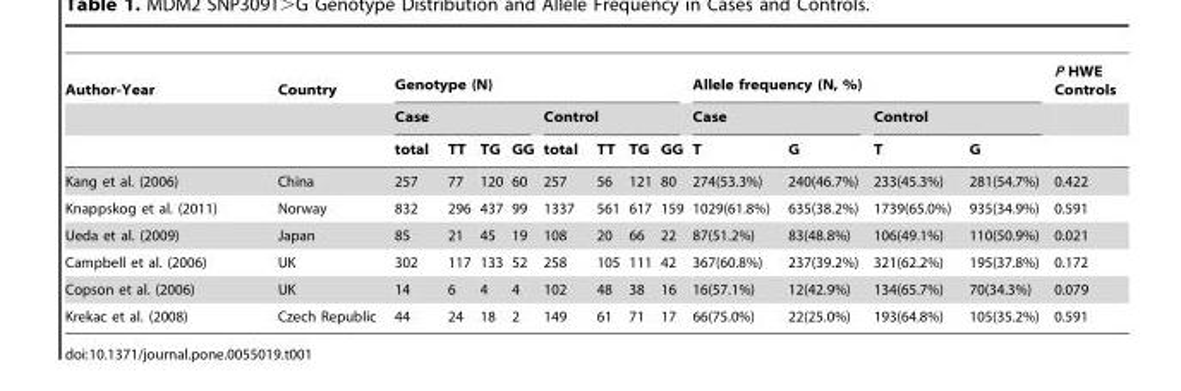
<table><thead><tr><td rowspan="3">Author-Year</td><td rowspan="3">Country</td><td colspan="8">Genotype (N)</td><td colspan="4">Allele frequency (N, %)</td><td rowspan="3">P HWE Controls</td></tr><tr><td colspan="4">Case</td><td colspan="4">Control</td><td colspan="2">Case</td><td colspan="2">Control</td></tr><tr><td>total</td><td>TT</td><td>TG</td><td>GG</td><td>total</td><td>TT</td><td>TG</td><td>GG</td><td>T</td><td>G</td><td>T</td><td>G</td></tr></thead><tbody><tr><td>Kang et al. (2006)</td><td>China</td><td>257</td><td>77</td><td>120</td><td>60</td><td>257</td><td>56</td><td>121</td><td>80</td><td>274(53.3%)</td><td>240(46.7%)</td><td>233(45.3%)</td><td>281(54.7%)</td><td>0.422</td></tr><tr><td>Knappskog et al. (2011)</td><td>Norway</td><td>832</td><td>296</td><td>437</td><td>99</td><td>1337</td><td>561</td><td>617</td><td>159</td><td>1029(61.8%)</td><td>635(38.2%)</td><td>1739(65.0%)</td><td>935(34.9%)</td><td>0.591</td></tr><tr><td>Ueda et al. (2009)</td><td>Japan</td><td>85</td><td>21</td><td>45</td><td>19</td><td>108</td><td>20</td><td>66</td><td>22</td><td>87(51.2%)</td><td>83(48.8%)</td><td>106(49.1%)</td><td>110(50.9%)</td><td>0.021</td></tr><tr><td>Campbell et al. (2006)</td><td>UK</td><td>302</td><td>117</td><td>133</td><td>52</td><td>258</td><td>105</td><td>111</td><td>42</td><td>367(60.8%)</td><td>237(39.2%)</td><td>321(62.2%)</td><td>195(37.8%)</td><td>0.172</td></tr><tr><td>Copson et al. (2006)</td><td>UK</td><td>14</td><td>6</td><td>4</td><td>4</td><td>102</td><td>48</td><td>38</td><td>16</td><td>16(57.1%)</td><td>12(42.9%)</td><td>134(65.7%)</td><td>70(34.3%)</td><td>0.079</td></tr><tr><td>Krekac et al. (2008)</td><td>Czech Republic</td><td>44</td><td>24</td><td>18</td><td>2</td><td>149</td><td>61</td><td>71</td><td>17</td><td>66(75.0%)</td><td>22(25.0%)</td><td>193(64.8%)</td><td>105(35.2%)</td><td>0.591</td></tr></tbody></table>